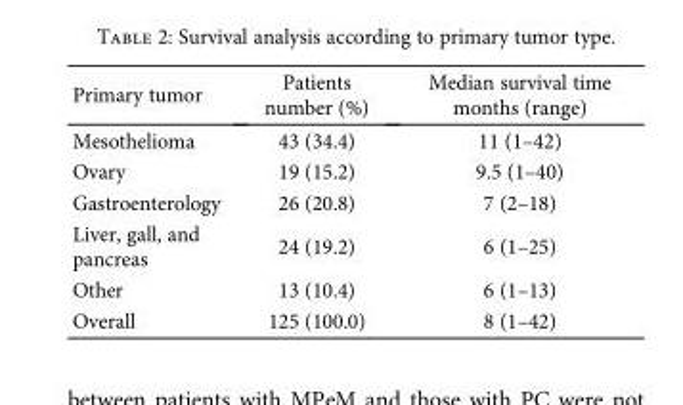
<table><thead><tr><td>Primary tumor</td><td>Patients number (%)</td><td>Median survival time months (range)</td></tr></thead><tbody><tr><td>Mesothelioma</td><td>43 (34.4)</td><td>11 (1–42)</td></tr><tr><td>Ovary</td><td>19 (15.2)</td><td>9.5 (1–40)</td></tr><tr><td>Gastroenterology</td><td>26 (20.8)</td><td>7 (2–18)</td></tr><tr><td>Liver, gall, and pancreas</td><td>24 (19.2)</td><td>6 (1–25)</td></tr><tr><td>Other</td><td>13 (10.4)</td><td>6 (1–13)</td></tr><tr><td>Overall</td><td>125 (100.0)</td><td>8 (1–42)</td></tr></tbody></table>